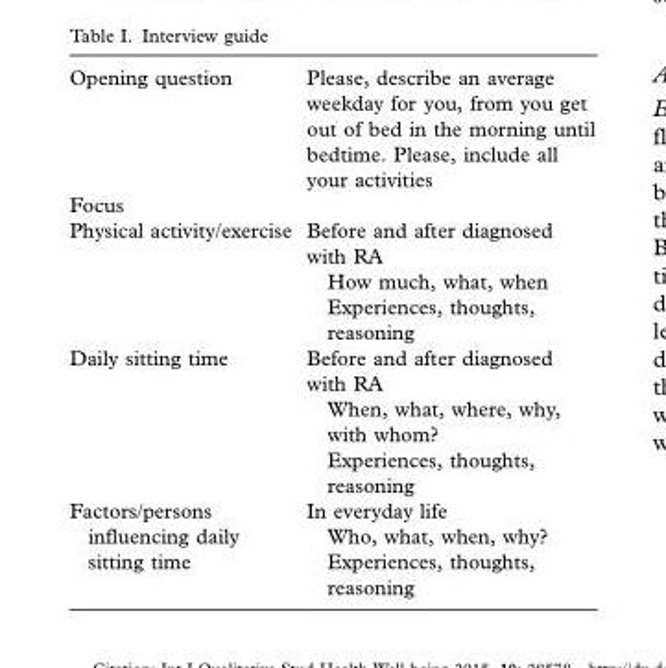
<table><tbody><tr><td>Opening question</td><td>Please, describe an average weekday for you, from you get out of bed in the morning until bedtime. Please, include all your activities</td></tr><tr><td colspan="2">Focus</td></tr><tr><td>Physical activity/exercise</td><td>Before and after diagnosed with RA How much, what, when Experiences, thoughts, reasoning</td></tr><tr><td>Daily sitting time</td><td>Before and after diagnosed with RA When, what, where, why, with whom? Experiences, thoughts, reasoning</td></tr><tr><td>Factors/persons influencing daily sitting time</td><td>In everyday life Who, what, when, why? Experiences, thoughts, reasoning</td></tr></tbody></table>